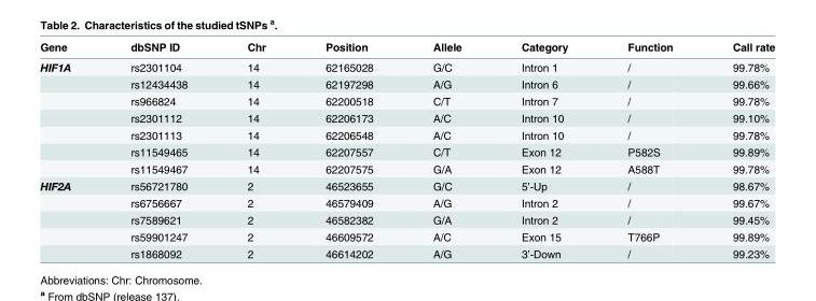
<table><thead><tr><td>Gene</td><td>dbSNP ID</td><td>Chr</td><td>Position</td><td>Allele</td><td>Category</td><td>Function</td><td>Call rate</td></tr></thead><tbody><tr><td rowspan="7">HIF1A</td><td>rs2301104</td><td>14</td><td>62165028</td><td>G/C</td><td>Intron 1</td><td>/</td><td>99.78%</td></tr><tr><td>rs12434438</td><td>14</td><td>62197298</td><td>A/G</td><td>Intron 6</td><td>/</td><td>99.66%</td></tr><tr><td>rs966824</td><td>14</td><td>62200518</td><td>C/T</td><td>Intron 7</td><td>/</td><td>99.78%</td></tr><tr><td>rs2301112</td><td>14</td><td>62206173</td><td>A/C</td><td>Intron 10</td><td>/</td><td>99.10%</td></tr><tr><td>rs2301113</td><td>14</td><td>62206548</td><td>A/C</td><td>Intron 10</td><td>/</td><td>99.78%</td></tr><tr><td>rs11549465</td><td>14</td><td>62207557</td><td>C/T</td><td>Exon 12</td><td>P582S</td><td>99.89%</td></tr><tr><td>rs11549467</td><td>14</td><td>62207575</td><td>G/A</td><td>Exon 12</td><td>A588T</td><td>99.78%</td></tr><tr><td rowspan="5">HIF2A</td><td>rs56721780</td><td>2</td><td>46523655</td><td>G/C</td><td>5’-Up</td><td>/</td><td>98.67%</td></tr><tr><td>rs6756667</td><td>2</td><td>46579409</td><td>A/G</td><td>Intron 2</td><td>/</td><td>99.67%</td></tr><tr><td>rs7589621</td><td>2</td><td>46582382</td><td>G/A</td><td>Intron 2</td><td>/</td><td>99.45%</td></tr><tr><td>rs59901247</td><td>2</td><td>46609572</td><td>A/C</td><td>Exon 15</td><td>T766P</td><td>99.89%</td></tr><tr><td>rs1868092</td><td>2</td><td>46614202</td><td>A/G</td><td>3’-Down</td><td>/</td><td>99.23%</td></tr></tbody></table>